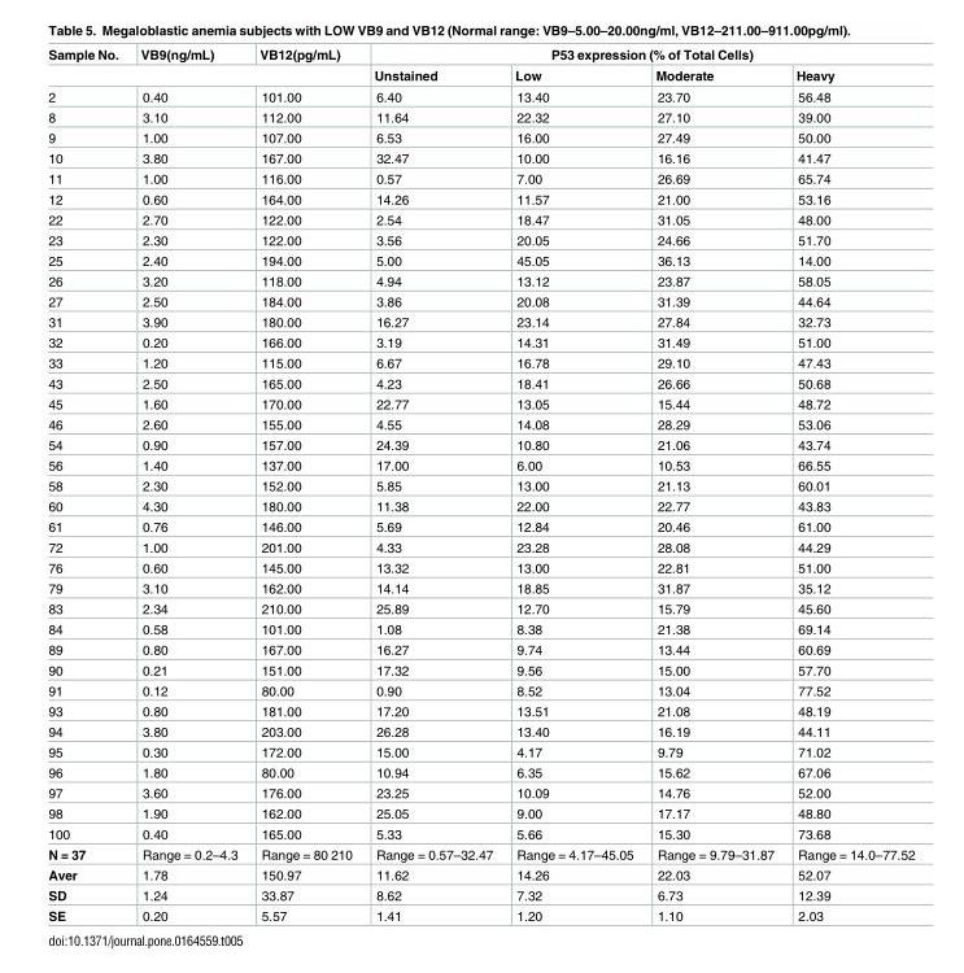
<table><thead><tr><td rowspan="2">Sample No.</td><td rowspan="2">VB9(ng/mL)</td><td rowspan="2">VB12(pg/mL)</td><td colspan="4">P53 expression (% of Total Cells)</td></tr><tr><td>Unstained</td><td>Low</td><td>Moderate</td><td>Heavy</td></tr></thead><tbody><tr><td>2</td><td>0.40</td><td>101.00</td><td>6.40</td><td>13.40</td><td>23.70</td><td>56.48</td></tr><tr><td>8</td><td>3.10</td><td>112.00</td><td>11.64</td><td>22.32</td><td>27.10</td><td>39.00</td></tr><tr><td>9</td><td>1.00</td><td>107.00</td><td>6.53</td><td>16.00</td><td>27.49</td><td>50.00</td></tr><tr><td>10</td><td>3.80</td><td>167.00</td><td>32.47</td><td>10.00</td><td>16.16</td><td>41.47</td></tr><tr><td>11</td><td>1.00</td><td>116.00</td><td>0.57</td><td>7.00</td><td>26.69</td><td>65.74</td></tr><tr><td>12</td><td>0.60</td><td>164.00</td><td>14.26</td><td>11.57</td><td>21.00</td><td>53.16</td></tr><tr><td>22</td><td>2.70</td><td>122.00</td><td>2.54</td><td>18.47</td><td>31.05</td><td>48.00</td></tr><tr><td>23</td><td>2.30</td><td>122.00</td><td>3.56</td><td>20.05</td><td>24.66</td><td>51.70</td></tr><tr><td>25</td><td>2.40</td><td>194.00</td><td>5.00</td><td>45.05</td><td>36.13</td><td>14.00</td></tr><tr><td>26</td><td>3.20</td><td>118.00</td><td>4.94</td><td>13.12</td><td>23.87</td><td>58.05</td></tr><tr><td>27</td><td>2.50</td><td>184.00</td><td>3.86</td><td>20.08</td><td>31.39</td><td>44.64</td></tr><tr><td>31</td><td>3.90</td><td>180.00</td><td>16.27</td><td>23.14</td><td>27.84</td><td>32.73</td></tr><tr><td>32</td><td>0.20</td><td>166.00</td><td>3.19</td><td>14.31</td><td>31.49</td><td>51.00</td></tr><tr><td>33</td><td>1.20</td><td>115.00</td><td>6.67</td><td>16.78</td><td>29.10</td><td>47.43</td></tr><tr><td>43</td><td>2.50</td><td>165.00</td><td>4.23</td><td>18.41</td><td>26.66</td><td>50.68</td></tr><tr><td>45</td><td>1.60</td><td>170.00</td><td>22.77</td><td>13.05</td><td>15.44</td><td>48.72</td></tr><tr><td>46</td><td>2.60</td><td>155.00</td><td>4.55</td><td>14.08</td><td>28.29</td><td>53.06</td></tr><tr><td>54</td><td>0.90</td><td>157.00</td><td>24.39</td><td>10.80</td><td>21.06</td><td>43.74</td></tr><tr><td>56</td><td>1.40</td><td>137.00</td><td>17.00</td><td>6.00</td><td>10.53</td><td>66.55</td></tr><tr><td>58</td><td>2.30</td><td>152.00</td><td>5.85</td><td>13.00</td><td>21.13</td><td>60.01</td></tr><tr><td>60</td><td>4.30</td><td>180.00</td><td>11.38</td><td>22.00</td><td>22.77</td><td>43.83</td></tr><tr><td>61</td><td>0.76</td><td>146.00</td><td>5.69</td><td>12.84</td><td>20.46</td><td>61.00</td></tr><tr><td>72</td><td>1.00</td><td>201.00</td><td>4.33</td><td>23.28</td><td>28.08</td><td>44.29</td></tr><tr><td>76</td><td>0.60</td><td>145.00</td><td>13.32</td><td>13.00</td><td>22.81</td><td>51.00</td></tr><tr><td>79</td><td>3.10</td><td>162.00</td><td>14.14</td><td>18.85</td><td>31.87</td><td>35.12</td></tr><tr><td>83</td><td>2.34</td><td>210.00</td><td>25.89</td><td>12.70</td><td>15.79</td><td>45.60</td></tr><tr><td>84</td><td>0.58</td><td>101.00</td><td>1.08</td><td>8.38</td><td>21.38</td><td>69.14</td></tr><tr><td>89</td><td>0.80</td><td>167.00</td><td>16.27</td><td>9.74</td><td>13.44</td><td>60.69</td></tr><tr><td>90</td><td>0.21</td><td>151.00</td><td>17.32</td><td>9.56</td><td>15.00</td><td>57.70</td></tr><tr><td>91</td><td>0.12</td><td>80.00</td><td>0.90</td><td>8.52</td><td>13.04</td><td>77.52</td></tr><tr><td>93</td><td>0.80</td><td>181.00</td><td>17.20</td><td>13.51</td><td>21.08</td><td>48.19</td></tr><tr><td>94</td><td>3.80</td><td>203.00</td><td>26.28</td><td>13.40</td><td>16.19</td><td>44.11</td></tr><tr><td>95</td><td>0.30</td><td>172.00</td><td>15.00</td><td>4.17</td><td>9.79</td><td>71.02</td></tr><tr><td>96</td><td>1.80</td><td>80.00</td><td>10.94</td><td>6.35</td><td>15.62</td><td>67.06</td></tr><tr><td>97</td><td>3.60</td><td>176.00</td><td>23.25</td><td>10.09</td><td>14.76</td><td>52.00</td></tr><tr><td>98</td><td>1.90</td><td>162.00</td><td>25.05</td><td>9.00</td><td>17.17</td><td>48.80</td></tr><tr><td>100</td><td>0.40</td><td>165.00</td><td>5.33</td><td>5.66</td><td>15.30</td><td>73.68</td></tr><tr><td>N = 37</td><td>Range = 0.2–4.3</td><td>Range = 80 210</td><td>Range = 0.57–32.47</td><td>Range = 4.17–45.05</td><td>Range = 9.79–31.87</td><td>Range = 14.0–77.52</td></tr><tr><td>Aver</td><td>1.78</td><td>150.97</td><td>11.62</td><td>14.26</td><td>22.03</td><td>52.07</td></tr><tr><td>SD</td><td>1.24</td><td>33.87</td><td>8.62</td><td>7.32</td><td>6.73</td><td>12.39</td></tr><tr><td>SE</td><td>0.20</td><td>5.57</td><td>1.41</td><td>1.20</td><td>1.10</td><td>2.03</td></tr></tbody></table>